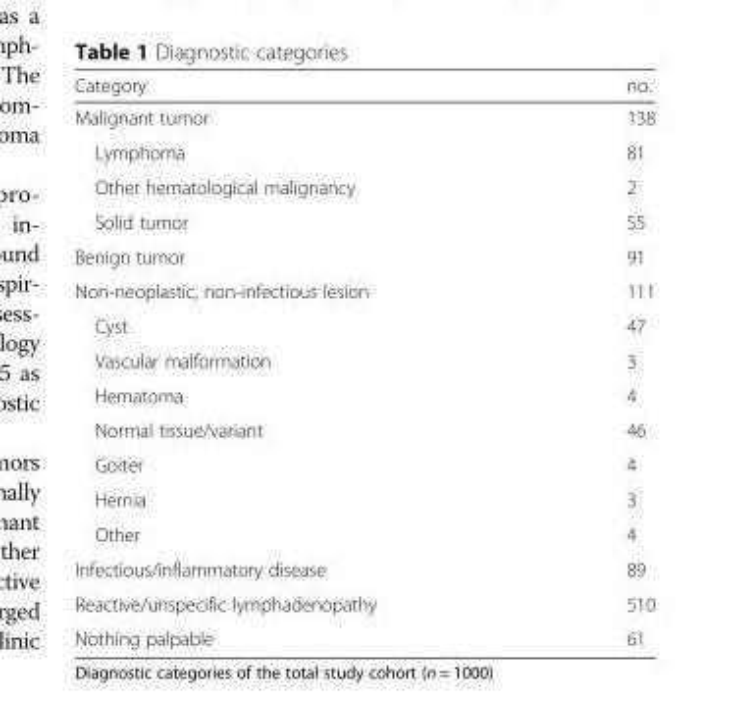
<table><thead><tr><td>Category</td><td>no.</td></tr></thead><tbody><tr><td>Malignant tumor</td><td>138</td></tr><tr><td>Lymphoma</td><td>81</td></tr><tr><td>Other hematological malignancy</td><td>2</td></tr><tr><td>Solid tumor</td><td>55</td></tr><tr><td>Benign tumor</td><td>91</td></tr><tr><td>Non-neoplastic, non-infectious lesion</td><td>111</td></tr><tr><td>Cyst</td><td>47</td></tr><tr><td>Vascular malformation</td><td>3</td></tr><tr><td>Hematoma</td><td>4</td></tr><tr><td>Normal tissue/variant</td><td>46</td></tr><tr><td>Goiter</td><td>4</td></tr><tr><td>Hernia</td><td>3</td></tr><tr><td>Other</td><td>4</td></tr><tr><td>Infectious/inflammatory disease</td><td>89</td></tr><tr><td>Reactive/unspecific lymphadenopathy</td><td>510</td></tr><tr><td>Nothing palpable</td><td>61</td></tr></tbody></table>